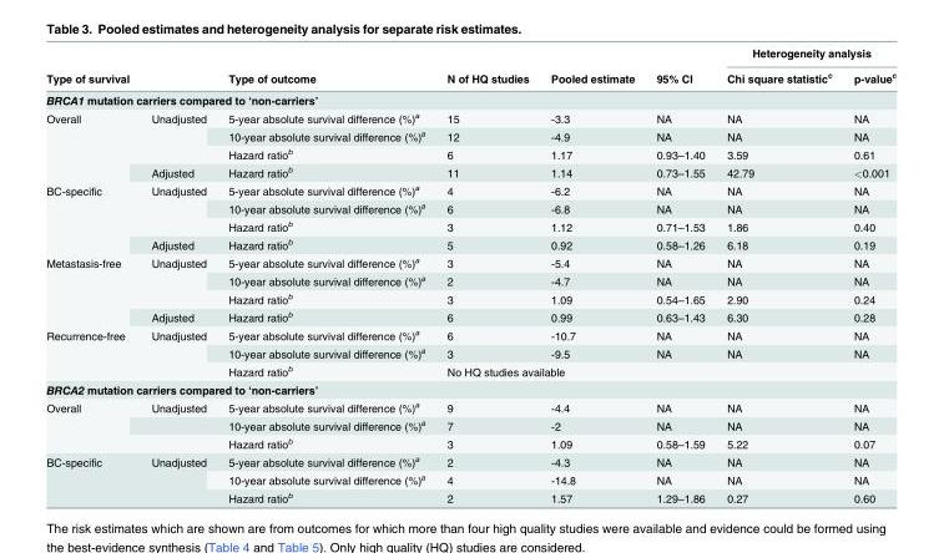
<table><thead><tr><td rowspan="2">Type of survival</td><td rowspan="2"></td><td rowspan="2">Type of outcome</td><td rowspan="2">N of HQ studies</td><td rowspan="2">Pooled estimate</td><td rowspan="2">95% CI</td><td colspan="2">Heterogeneity analysis</td></tr><tr><td>Chi square statistic<sup>c</sup></td><td>p-value<sup>c</sup></td></tr></thead><tbody><tr><td colspan="8">BRCA1 mutation carriers compared to ‘non-carriers’</td></tr><tr><td rowspan="4">Overall</td><td rowspan="3">Unadjusted</td><td>5-year absolute survival difference (%)<sup>a</sup></td><td>15</td><td>-3.3</td><td>NA</td><td>NA</td><td>NA</td></tr><tr><td>10-year absolute survival difference (%)<sup>a</sup></td><td>12</td><td>-4.9</td><td>NA</td><td>NA</td><td>NA</td></tr><tr><td>Hazard ratio<sup>b</sup></td><td>6</td><td>1.17</td><td>0.93–1.40</td><td>3.59</td><td>0.61</td></tr><tr><td>Adjusted</td><td>Hazard ratio<sup>b</sup></td><td>11</td><td>1.14</td><td>0.73–1.55</td><td>42.79</td><td>&lt;0.001</td></tr><tr><td rowspan="4">BC-specific</td><td rowspan="3">Unadjusted</td><td>5-year absolute survival difference (%)<sup>a</sup></td><td>4</td><td>-6.2</td><td>NA</td><td>NA</td><td>NA</td></tr><tr><td>10-year absolute survival difference (%)<sup>a</sup></td><td>6</td><td>-6.8</td><td>NA</td><td>NA</td><td>NA</td></tr><tr><td>Hazard ratio<sup>b</sup></td><td>3</td><td>1.12</td><td>0.71–1.53</td><td>1.86</td><td>0.40</td></tr><tr><td>Adjusted</td><td>Hazard ratio<sup>b</sup></td><td>5</td><td>0.92</td><td>0.58–1.26</td><td>6.18</td><td>0.19</td></tr><tr><td rowspan="4">Metastasis-free</td><td rowspan="3">Unadjusted</td><td>5-year absolute survival difference (%)<sup>a</sup></td><td>3</td><td>-5.4</td><td>NA</td><td>NA</td><td>NA</td></tr><tr><td>10-year absolute survival difference (%)<sup>a</sup></td><td>2</td><td>-4.7</td><td>NA</td><td>NA</td><td>NA</td></tr><tr><td>Hazard ratio<sup>b</sup></td><td>3</td><td>1.09</td><td>0.54–1.65</td><td>2.90</td><td>0.24</td></tr><tr><td>Adjusted</td><td>Hazard ratio<sup>b</sup></td><td>6</td><td>0.99</td><td>0.63–1.43</td><td>6.30</td><td>0.28</td></tr><tr><td rowspan="3">Recurrence-free</td><td rowspan="3">Unadjusted</td><td>5-year absolute survival difference (%)<sup>a</sup></td><td>6</td><td>-10.7</td><td>NA</td><td>NA</td><td>NA</td></tr><tr><td>10-year absolute survival difference (%)<sup>a</sup></td><td>3</td><td>-9.5</td><td>NA</td><td>NA</td><td>NA</td></tr><tr><td>Hazard ratio<sup>b</sup></td><td colspan="5">No HQ studies available</td></tr><tr><td colspan="8">BRCA2 mutation carriers compared to ‘non-carriers’</td></tr><tr><td rowspan="3">Overall</td><td>Unadjusted</td><td>5-year absolute survival difference (%)<sup>a</sup></td><td>9</td><td>-4.4</td><td>NA</td><td>NA</td><td>NA</td></tr><tr><td></td><td>10-year absolute survival difference (%)<sup>a</sup></td><td>7</td><td>-2</td><td>NA</td><td>NA</td><td>NA</td></tr><tr><td></td><td>Hazard ratio<sup>b</sup></td><td>3</td><td>1.09</td><td>0.58–1.59</td><td>5.22</td><td>0.07</td></tr><tr><td rowspan="3">BC-specific</td><td rowspan="3">Unadjusted</td><td>5-year absolute survival difference (%)<sup>a</sup></td><td>2</td><td>-4.3</td><td>NA</td><td>NA</td><td>NA</td></tr><tr><td>10-year absolute survival difference (%)<sup>a</sup></td><td>4</td><td>-14.8</td><td>NA</td><td>NA</td><td>NA</td></tr><tr><td>Hazard ratio<sup>b</sup></td><td>2</td><td>1.57</td><td>1.29–1.86</td><td>0.27</td><td>0.60</td></tr></tbody></table>